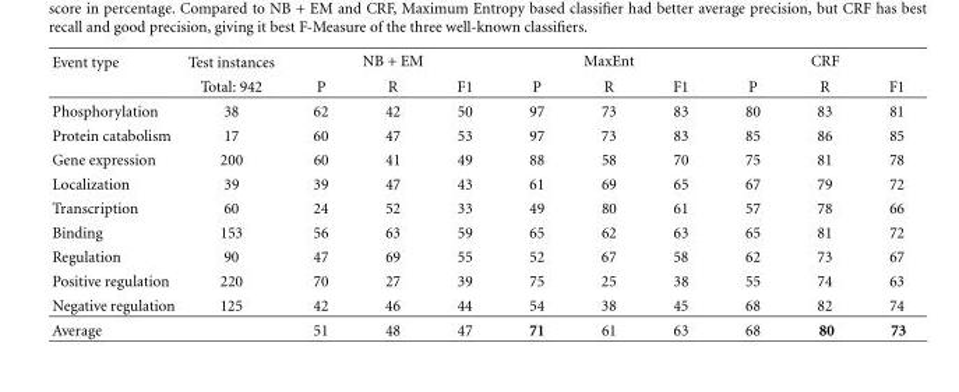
<table><thead><tr><td rowspan="2">Event type</td><td rowspan="2">Test instances Total: 942</td><td colspan="3">NB + EM</td><td colspan="3">MaxEnt</td><td colspan="3">CRF</td></tr><tr><td>P</td><td>R</td><td>F1</td><td>P</td><td>R</td><td>F1</td><td>P</td><td>R</td><td>F1</td></tr></thead><tbody><tr><td>Phosphorylation</td><td>38</td><td>62</td><td>42</td><td>50</td><td>97</td><td>73</td><td>83</td><td>80</td><td>83</td><td>81</td></tr><tr><td>Protein catabolism</td><td>17</td><td>60</td><td>47</td><td>53</td><td>97</td><td>73</td><td>83</td><td>85</td><td>86</td><td>85</td></tr><tr><td>Gene expression</td><td>200</td><td>60</td><td>41</td><td>49</td><td>88</td><td>58</td><td>70</td><td>75</td><td>81</td><td>78</td></tr><tr><td>Localization</td><td>39</td><td>39</td><td>47</td><td>43</td><td>61</td><td>69</td><td>65</td><td>67</td><td>79</td><td>72</td></tr><tr><td>Transcription</td><td>60</td><td>24</td><td>52</td><td>33</td><td>49</td><td>80</td><td>61</td><td>57</td><td>78</td><td>66</td></tr><tr><td>Binding</td><td>153</td><td>56</td><td>63</td><td>59</td><td>65</td><td>62</td><td>63</td><td>65</td><td>81</td><td>72</td></tr><tr><td>Regulation</td><td>90</td><td>47</td><td>69</td><td>55</td><td>52</td><td>67</td><td>58</td><td>62</td><td>73</td><td>67</td></tr><tr><td>Positive regulation</td><td>220</td><td>70</td><td>27</td><td>39</td><td>75</td><td>25</td><td>38</td><td>55</td><td>74</td><td>63</td></tr><tr><td>Negative regulation</td><td>125</td><td>42</td><td>46</td><td>44</td><td>54</td><td>38</td><td>45</td><td>68</td><td>82</td><td>74</td></tr><tr><td>Average</td><td></td><td>51</td><td>48</td><td>47</td><td>71</td><td>61</td><td>63</td><td>68</td><td>80</td><td>73</td></tr></tbody></table>